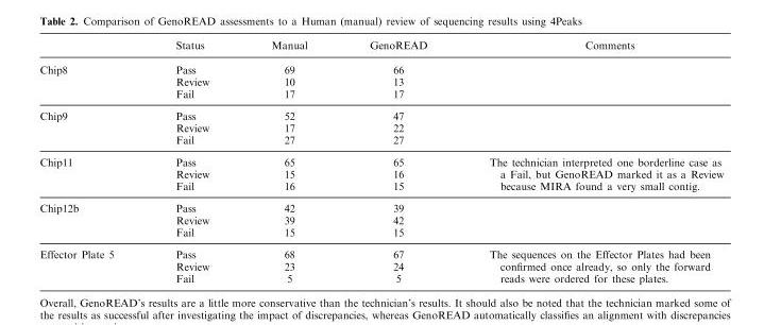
<table><thead><tr><td></td><td>Status</td><td>Manual</td><td>GenoREAD</td><td>Comments</td></tr></thead><tbody><tr><td rowspan="3">Chip8</td><td>Pass</td><td>69</td><td>66</td><td rowspan="3"></td></tr><tr><td>Review</td><td>10</td><td>13</td></tr><tr><td>Fail</td><td>17</td><td>17</td></tr><tr><td rowspan="3">Chip9</td><td>Pass</td><td>52</td><td>47</td><td rowspan="3"></td></tr><tr><td>Review</td><td>17</td><td>22</td></tr><tr><td>Fail</td><td>27</td><td>27</td></tr><tr><td rowspan="3">Chip11</td><td>Pass</td><td>65</td><td>65</td><td rowspan="3">The technician interpreted one borderline case as a Fail, but GenoREAD marked it as a Review because MIRA found a very small contig.</td></tr><tr><td>Review</td><td>15</td><td>16</td></tr><tr><td>Fail</td><td>16</td><td>15</td></tr><tr><td rowspan="3">Chip12b</td><td>Pass</td><td>42</td><td>39</td><td rowspan="3"></td></tr><tr><td>Review</td><td>39</td><td>42</td></tr><tr><td>Fail</td><td>15</td><td>15</td></tr><tr><td rowspan="3">Effector Plate 5</td><td>Pass</td><td>68</td><td>67</td><td rowspan="3">The sequences on the Effector Plates had been confirmed once already, so only the forward reads were ordered for these plates.</td></tr><tr><td>Review</td><td>23</td><td>24</td></tr><tr><td>Fail</td><td>5</td><td>5</td></tr></tbody></table>